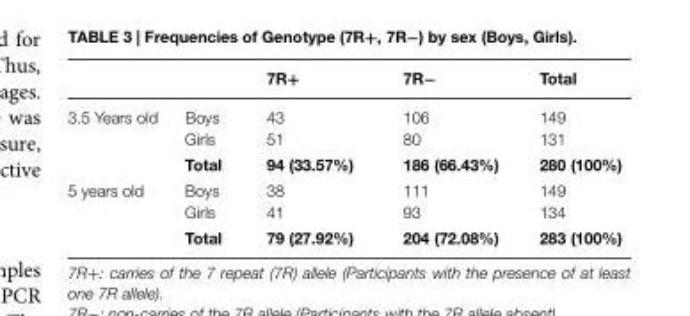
<table><thead><tr><td></td><td></td><td>7R+</td><td>7R−</td><td>Total</td></tr></thead><tbody><tr><td rowspan="2">3.5 Years old</td><td>Boys Girls</td><td>43 51</td><td>106 80</td><td>149 131</td></tr><tr><td>Total</td><td>94 (33.57%)</td><td>186 (66.43%)</td><td>280 (100%)</td></tr><tr><td rowspan="2">5 years old</td><td>Boys Girls</td><td>38 41</td><td>111 93</td><td>149 134</td></tr><tr><td>Total</td><td>79 (27.92%)</td><td>204 (72.08%)</td><td>283 (100%)</td></tr></tbody></table>